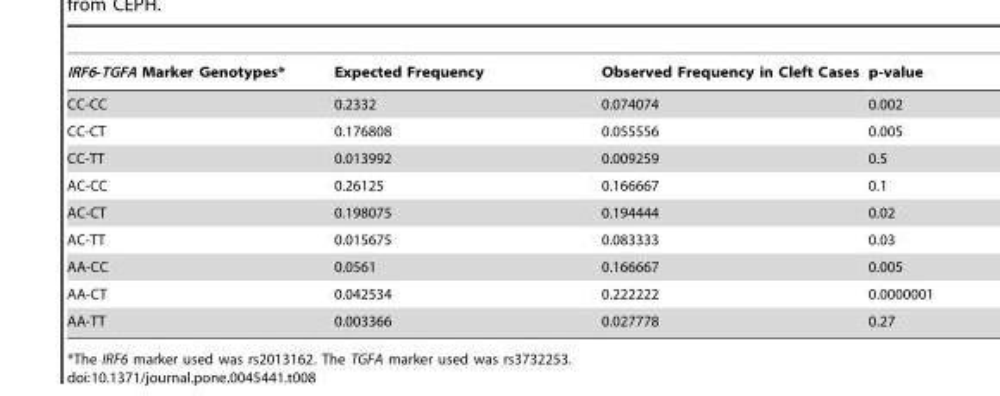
<table><thead><tr><td>IRF6-TGFA Marker Genotypes*</td><td>Expected Frequency</td><td>Observed Frequency in Cleft Cases</td><td>p-value</td></tr></thead><tbody><tr><td>CC-CC</td><td>0.2332</td><td>0.074074</td><td>0.002</td></tr><tr><td>CC-CT</td><td>0.176808</td><td>0.055556</td><td>0.005</td></tr><tr><td>CC-TT</td><td>0.013992</td><td>0.009259</td><td>0.5</td></tr><tr><td>AC-CC</td><td>0.26125</td><td>0.166667</td><td>0.1</td></tr><tr><td>AC-CT</td><td>0.198075</td><td>0.194444</td><td>0.02</td></tr><tr><td>AC-TT</td><td>0.015675</td><td>0.083333</td><td>0.03</td></tr><tr><td>AA-CC</td><td>0.0561</td><td>0.166667</td><td>0.005</td></tr><tr><td>AA-CT</td><td>0.042534</td><td>0.222222</td><td>0.0000001</td></tr><tr><td>AA-TT</td><td>0.003366</td><td>0.027778</td><td>0.27</td></tr></tbody></table>